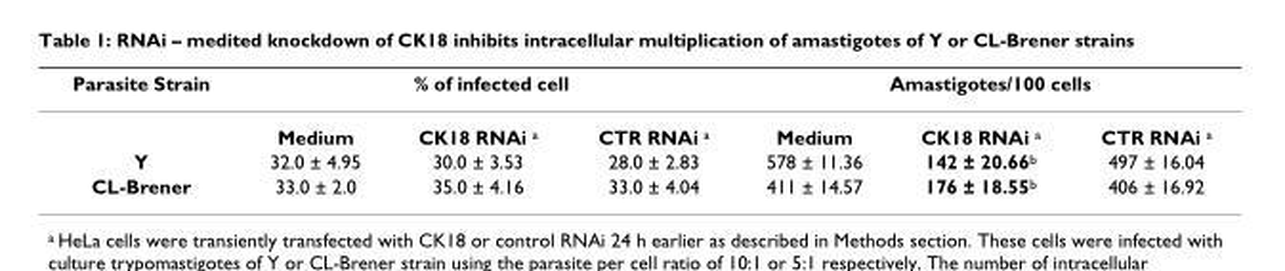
<table><thead><tr><td rowspan="2">Parasite Strain</td><td colspan="3">% of infected cell</td><td colspan="3">Amastigotes/100 cells</td></tr><tr><td>Medium</td><td>CK18 RNAi <sup>a</sup></td><td>CTR RNAi <sup>a</sup></td><td>Medium</td><td>CK18 RNAi <sup>a</sup></td><td>CTR RNAi <sup>a</sup></td></tr></thead><tbody><tr><td>Y</td><td>32.0 ± 4.95</td><td>30.0 ± 3.53</td><td>28.0 ± 2.83</td><td>578 ± 11.36</td><td>142 ± 20.66<sup>b</sup></td><td>497 ± 16.04</td></tr><tr><td>CL-Brener</td><td>33.0 ± 2.0</td><td>35.0 ± 4.16</td><td>33.0 ± 4.04</td><td>411 ± 14.57</td><td>176 ± 18.55<sup>b</sup></td><td>406 ± 16.92</td></tr></tbody></table>